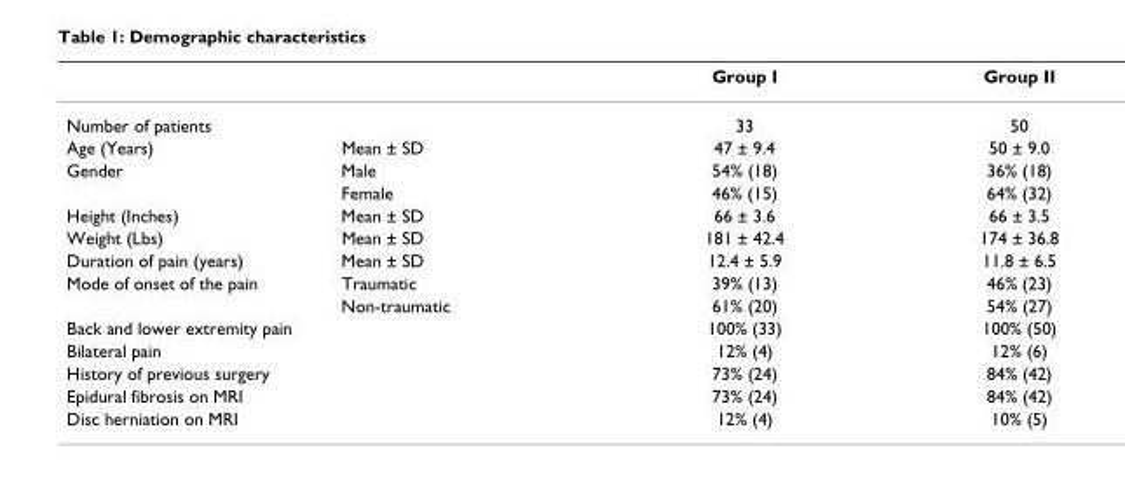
<table><thead><tr><td></td><td></td><td>Group I</td><td>Group II</td></tr></thead><tbody><tr><td colspan="2">Number of patients</td><td>33</td><td>50</td></tr><tr><td>Age (Years)</td><td>Mean ± SD</td><td>47 ± 9.4</td><td>50 ± 9.0</td></tr><tr><td rowspan="2">Gender</td><td>Male</td><td>54% (18)</td><td>36% (18)</td></tr><tr><td>Female</td><td>46% (15)</td><td>64% (32)</td></tr><tr><td>Height (Inches)</td><td>Mean ± SD</td><td>66 ± 3.6</td><td>66 ± 3.5</td></tr><tr><td>Weight (Lbs)</td><td>Mean ± SD</td><td>181 ± 42.4</td><td>174 ± 36.8</td></tr><tr><td>Duration of pain (years)</td><td>Mean ± SD</td><td>12.4 ± 5.9</td><td>11.8 ± 6.5</td></tr><tr><td rowspan="2">Mode of onset of the pain</td><td>Traumatic</td><td>39% (13)</td><td>46% (23)</td></tr><tr><td>Non-traumatic</td><td>61% (20)</td><td>54% (27)</td></tr><tr><td colspan="2">Back and lower extremity pain</td><td>100% (33)</td><td>100% (50)</td></tr><tr><td colspan="2">Bilateral pain</td><td>12% (4)</td><td>12% (6)</td></tr><tr><td colspan="2">History of previous surgery</td><td>73% (24)</td><td>84% (42)</td></tr><tr><td colspan="2">Epidural fibrosis on MRI</td><td>73% (24)</td><td>84% (42)</td></tr><tr><td colspan="2">Disc herniation on MRI</td><td>12% (4)</td><td>10% (5)</td></tr></tbody></table>